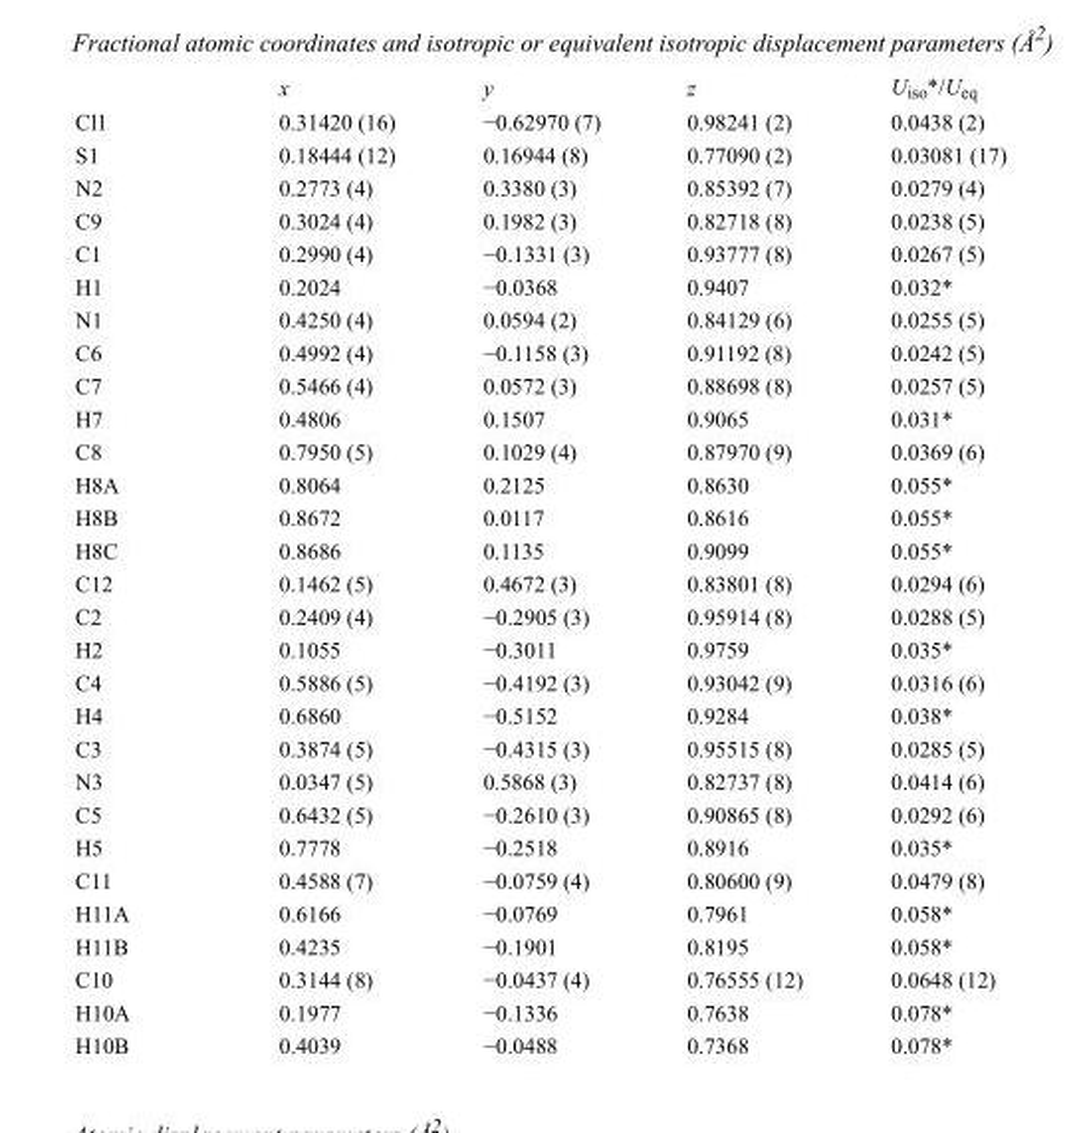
<table><thead><tr><td></td><td>x</td><td>y</td><td>z</td><td>U<sub>iso</sub>*/U<sub>eq</sub></td></tr></thead><tbody><tr><td>Cl1</td><td>0.31420 (16)</td><td>−0.62970 (7)</td><td>0.98241 (2)</td><td>0.0438 (2)</td></tr><tr><td>S1</td><td>0.18444 (12)</td><td>0.16944 (8)</td><td>0.77090 (2)</td><td>0.03081 (17)</td></tr><tr><td>N2</td><td>0.2773 (4)</td><td>0.3380 (3)</td><td>0.85392 (7)</td><td>0.0279 (4)</td></tr><tr><td>C9</td><td>0.3024 (4)</td><td>0.1982 (3)</td><td>0.82718 (8)</td><td>0.0238 (5)</td></tr><tr><td>C1</td><td>0.2990 (4)</td><td>−0.1331 (3)</td><td>0.93777 (8)</td><td>0.0267 (5)</td></tr><tr><td>H1</td><td>0.2024</td><td>−0.0368</td><td>0.9407</td><td>0.032*</td></tr><tr><td>N1</td><td>0.4250 (4)</td><td>0.0594 (2)</td><td>0.84129 (6)</td><td>0.0255 (5)</td></tr><tr><td>C6</td><td>0.4992 (4)</td><td>−0.1158 (3)</td><td>0.91192 (8)</td><td>0.0242 (5)</td></tr><tr><td>C7</td><td>0.5466 (4)</td><td>0.0572 (3)</td><td>0.88698 (8)</td><td>0.0257 (5)</td></tr><tr><td>H7</td><td>0.4806</td><td>0.1507</td><td>0.9065</td><td>0.031*</td></tr><tr><td>C8</td><td>0.7950 (5)</td><td>0.1029 (4)</td><td>0.87970 (9)</td><td>0.0369 (6)</td></tr><tr><td>H8A</td><td>0.8064</td><td>0.2125</td><td>0.8630</td><td>0.055*</td></tr><tr><td>H8B</td><td>0.8672</td><td>0.0117</td><td>0.8616</td><td>0.055*</td></tr><tr><td>H8C</td><td>0.8686</td><td>0.1135</td><td>0.9099</td><td>0.055*</td></tr><tr><td>C12</td><td>0.1462 (5)</td><td>0.4672 (3)</td><td>0.83801 (8)</td><td>0.0294 (6)</td></tr><tr><td>C2</td><td>0.2409 (4)</td><td>−0.2905 (3)</td><td>0.95914 (8)</td><td>0.0288 (5)</td></tr><tr><td>H2</td><td>0.1055</td><td>−0.3011</td><td>0.9759</td><td>0.035*</td></tr><tr><td>C4</td><td>0.5886 (5)</td><td>−0.4192 (3)</td><td>0.93042 (9)</td><td>0.0316 (6)</td></tr><tr><td>H4</td><td>0.6860</td><td>−0.5152</td><td>0.9284</td><td>0.038*</td></tr><tr><td>C3</td><td>0.3874 (5)</td><td>−0.4315 (3)</td><td>0.95515 (8)</td><td>0.0285 (5)</td></tr><tr><td>N3</td><td>0.0347 (5)</td><td>0.5868 (3)</td><td>0.82737 (8)</td><td>0.0414 (6)</td></tr><tr><td>C5</td><td>0.6432 (5)</td><td>−0.2610 (3)</td><td>0.90865 (8)</td><td>0.0292 (6)</td></tr><tr><td>H5</td><td>0.7778</td><td>−0.2518</td><td>0.8916</td><td>0.035*</td></tr><tr><td>C11</td><td>0.4588 (7)</td><td>−0.0759 (4)</td><td>0.80600 (9)</td><td>0.0479 (8)</td></tr><tr><td>H11A</td><td>0.6166</td><td>−0.0769</td><td>0.7961</td><td>0.058*</td></tr><tr><td>H11B</td><td>0.4235</td><td>−0.1901</td><td>0.8195</td><td>0.058*</td></tr><tr><td>C10</td><td>0.3144 (8)</td><td>−0.0437 (4)</td><td>0.76555 (12)</td><td>0.0648 (12)</td></tr><tr><td>H10A</td><td>0.1977</td><td>−0.1336</td><td>0.7638</td><td>0.078*</td></tr><tr><td>H10B</td><td>0.4039</td><td>−0.0488</td><td>0.7368</td><td>0.078*</td></tr></tbody></table>